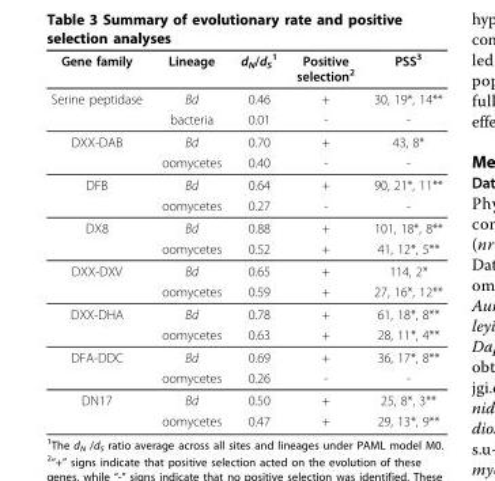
<table><thead><tr><td>Gene family</td><td>Lineage</td><td>d<sub>N</sub>/d<sub>S</sub> <sup>1</sup></td><td>Positive selection<sup>2</sup></td><td>PSS<sup>3</sup></td></tr></thead><tbody><tr><td rowspan="2">Serine peptidase</td><td>Bd</td><td>0.46</td><td>+</td><td>30, 19*, 14**</td></tr><tr><td>bacteria</td><td>0.01</td><td>-</td><td>-</td></tr><tr><td rowspan="2">DXX-DAB</td><td>Bd</td><td>0.70</td><td>+</td><td>43, 8*</td></tr><tr><td>oomycetes</td><td>0.40</td><td>-</td><td>-</td></tr><tr><td rowspan="2">DFB</td><td>Bd</td><td>0.64</td><td>+</td><td>90, 21*, 11**</td></tr><tr><td>oomycetes</td><td>0.27</td><td>-</td><td>-</td></tr><tr><td rowspan="2">DX8</td><td>Bd</td><td>0.88</td><td>+</td><td>101, 18*, 8**</td></tr><tr><td>oomycetes</td><td>0.52</td><td>+</td><td>41, 12*, 5**</td></tr><tr><td rowspan="2">DXX-DXV</td><td>Bd</td><td>0.65</td><td>+</td><td>114, 2*</td></tr><tr><td>oomycetes</td><td>0.59</td><td>+</td><td>27, 16*, 12**</td></tr><tr><td rowspan="2">DXX-DHA</td><td>Bd</td><td>0.78</td><td>+</td><td>61, 18*, 8**</td></tr><tr><td>oomycetes</td><td>0.63</td><td>+</td><td>28, 11*, 4**</td></tr><tr><td rowspan="2">DFA-DDC</td><td>Bd</td><td>0.69</td><td>+</td><td>36, 17*, 8**</td></tr><tr><td>oomycetes</td><td>0.26</td><td>-</td><td>-</td></tr><tr><td rowspan="2">DN17</td><td>Bd</td><td>0.50</td><td>+</td><td>25, 8*, 3**</td></tr><tr><td>oomycetes</td><td>0.47</td><td>+</td><td>29, 13*, 9**</td></tr></tbody></table>